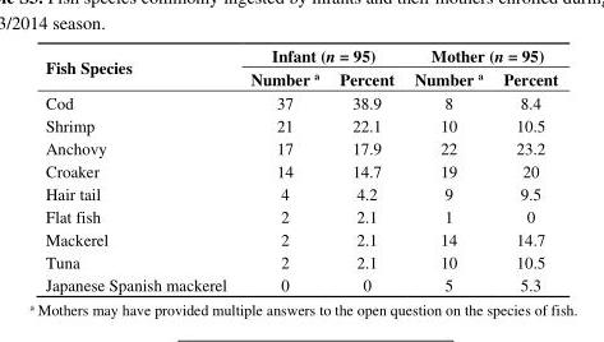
<table><thead><tr><td rowspan="2">Fish Species</td><td colspan="2">Infant (n = 95)</td><td colspan="2">Mother (n = 95)</td></tr><tr><td>Number <sup>a</sup></td><td>Percent</td><td>Number <sup>a</sup></td><td>Percent</td></tr></thead><tbody><tr><td>Cod</td><td>37</td><td>38.9</td><td>8</td><td>8.4</td></tr><tr><td>Shrimp</td><td>21</td><td>22.1</td><td>10</td><td>10.5</td></tr><tr><td>Anchovy</td><td>17</td><td>17.9</td><td>22</td><td>23.2</td></tr><tr><td>Croaker</td><td>14</td><td>14.7</td><td>19</td><td>20</td></tr><tr><td>Hair tail</td><td>4</td><td>4.2</td><td>9</td><td>9.5</td></tr><tr><td>Flat fish</td><td>2</td><td>2.1</td><td>1</td><td>0</td></tr><tr><td>Mackerel</td><td>2</td><td>2.1</td><td>14</td><td>14.7</td></tr><tr><td>Tuna</td><td>2</td><td>2.1</td><td>10</td><td>10.5</td></tr><tr><td>Japanese Spanish mackerel</td><td>0</td><td>0</td><td>5</td><td>5.3</td></tr></tbody></table>